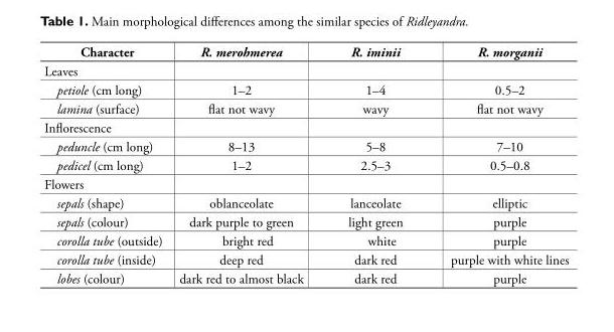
<table><thead><tr><td>Character</td><td>R. merohmerea</td><td>R. iminii</td><td>R. morganii</td></tr></thead><tbody><tr><td colspan="4">Leaves</td></tr><tr><td>petiole (cm long)</td><td>1–2</td><td>1–4</td><td>0.5–2</td></tr><tr><td>lamina (surface)</td><td>flat not wavy</td><td>wavy</td><td>flat not wavy</td></tr><tr><td colspan="4">Inflorescence</td></tr><tr><td>peduncle (cm long)</td><td>8–13</td><td>5–8</td><td>7–10</td></tr><tr><td>pedicel (cm long)</td><td>1–2</td><td>2.5–3</td><td>0.5–0.8</td></tr><tr><td colspan="4">Flowers</td></tr><tr><td>sepals (shape)</td><td>oblanceolate</td><td>lanceolate</td><td>elliptic</td></tr><tr><td>sepals (colour)</td><td>dark purple to green</td><td>light green</td><td>purple</td></tr><tr><td>corolla tube (outside)</td><td>bright red</td><td>white</td><td>purple</td></tr><tr><td>corolla tube (inside)</td><td>deep red</td><td>dark red</td><td>purple with white lines</td></tr><tr><td>lobes (colour)</td><td>dark red to almost black</td><td>dark red</td><td>purple</td></tr></tbody></table>